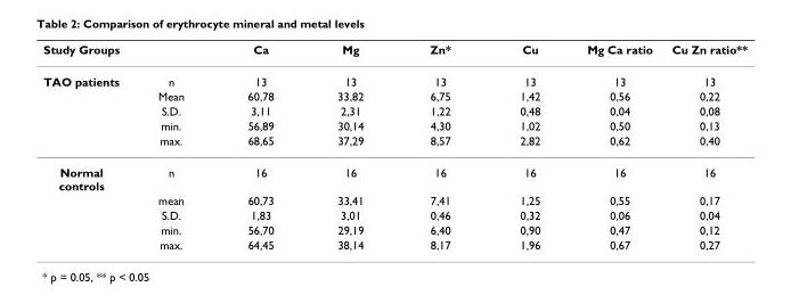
<table><thead><tr><td>Study Groups</td><td></td><td>Ca</td><td>Mg</td><td>Zn*</td><td>Cu</td><td>Mg Ca ratio</td><td>Cu Zn ratio**</td></tr></thead><tbody><tr><td rowspan="5">TAO patients</td><td>n</td><td>13</td><td>13</td><td>13</td><td>13</td><td>13</td><td>13</td></tr><tr><td>Mean</td><td>60,78</td><td>33,82</td><td>6,75</td><td>1,42</td><td>0,56</td><td>0,22</td></tr><tr><td>S.D.</td><td>3,11</td><td>2,31</td><td>1,22</td><td>0,48</td><td>0,04</td><td>0,08</td></tr><tr><td>min.</td><td>56,89</td><td>30,14</td><td>4,30</td><td>1,02</td><td>0,50</td><td>0,13</td></tr><tr><td>max.</td><td>68,65</td><td>37,29</td><td>8,57</td><td>2,82</td><td>0,62</td><td>0,40</td></tr><tr><td rowspan="5">Normal controls</td><td>n</td><td>16</td><td>16</td><td>16</td><td>16</td><td>16</td><td>16</td></tr><tr><td>mean</td><td>60,73</td><td>33,41</td><td>7,41</td><td>1,25</td><td>0,55</td><td>0,17</td></tr><tr><td>S.D.</td><td>1,83</td><td>3,01</td><td>0,46</td><td>0,32</td><td>0,06</td><td>0,04</td></tr><tr><td>min.</td><td>56,70</td><td>29,19</td><td>6,40</td><td>0,90</td><td>0,47</td><td>0,12</td></tr><tr><td>max.</td><td>64,45</td><td>38,14</td><td>8,17</td><td>1,96</td><td>0,67</td><td>0,27</td></tr></tbody></table>